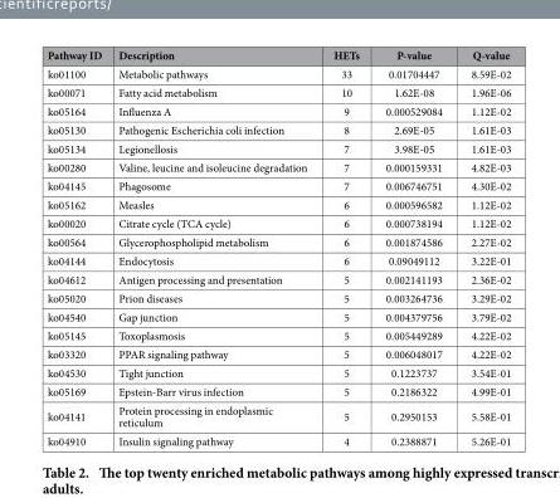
<table><thead><tr><td>Pathway ID</td><td>Description</td><td>HETs</td><td>P-value</td><td>Q-value</td></tr></thead><tbody><tr><td>ko01100</td><td>Metabolic pathways</td><td>33</td><td>0.01704447</td><td>8.59E-02</td></tr><tr><td>ko00071</td><td>Fatty acid metabolism</td><td>10</td><td>1.62E-08</td><td>1.96E-06</td></tr><tr><td>ko05164</td><td>Influenza A</td><td>9</td><td>0.000529084</td><td>1.12E-02</td></tr><tr><td>ko05130</td><td>Pathogenic Escherichia coli infection</td><td>8</td><td>2.69E-05</td><td>1.61E-03</td></tr><tr><td>ko05134</td><td>Legionellosis</td><td>7</td><td>3.98E-05</td><td>1.61E-03</td></tr><tr><td>ko00280</td><td>Valine, leucine and isoleucine degradation</td><td>7</td><td>0.000159331</td><td>4.82E-03</td></tr><tr><td>ko04145</td><td>Phagosome</td><td>7</td><td>0.006746751</td><td>4.30E-02</td></tr><tr><td>ko05162</td><td>Measles</td><td>6</td><td>0.000596582</td><td>1.12E-02</td></tr><tr><td>ko00020</td><td>Citrate cycle (TCA cycle)</td><td>6</td><td>0.000738194</td><td>1.12E-02</td></tr><tr><td>ko00564</td><td>Glycerophospholipid metabolism</td><td>6</td><td>0.001874586</td><td>2.27E-02</td></tr><tr><td>ko04144</td><td>Endocytosis</td><td>6</td><td>0.09049112</td><td>3.22E-01</td></tr><tr><td>ko04612</td><td>Antigen processing and presentation</td><td>5</td><td>0.002141193</td><td>2.36E-02</td></tr><tr><td>ko05020</td><td>Prion diseases</td><td>5</td><td>0.003264736</td><td>3.29E-02</td></tr><tr><td>ko04540</td><td>Gap junction</td><td>5</td><td>0.004379756</td><td>3.79E-02</td></tr><tr><td>ko05145</td><td>Toxoplasmosis</td><td>5</td><td>0.005449289</td><td>4.22E-02</td></tr><tr><td>ko03320</td><td>PPAR signaling pathway</td><td>5</td><td>0.006048017</td><td>4.22E-02</td></tr><tr><td>ko04530</td><td>Tight junction</td><td>5</td><td>0.1223737</td><td>3.54E-01</td></tr><tr><td>ko05169</td><td>Epstein-Barr virus infection</td><td>5</td><td>0.2186322</td><td>4.99E-01</td></tr><tr><td>ko04141</td><td>Protein processing in endoplasmic reticulum</td><td>5</td><td>0.2950153</td><td>5.58E-01</td></tr><tr><td>ko04910</td><td>Insulin signaling pathway</td><td>4</td><td>0.2388871</td><td>5.26E-01</td></tr></tbody></table>